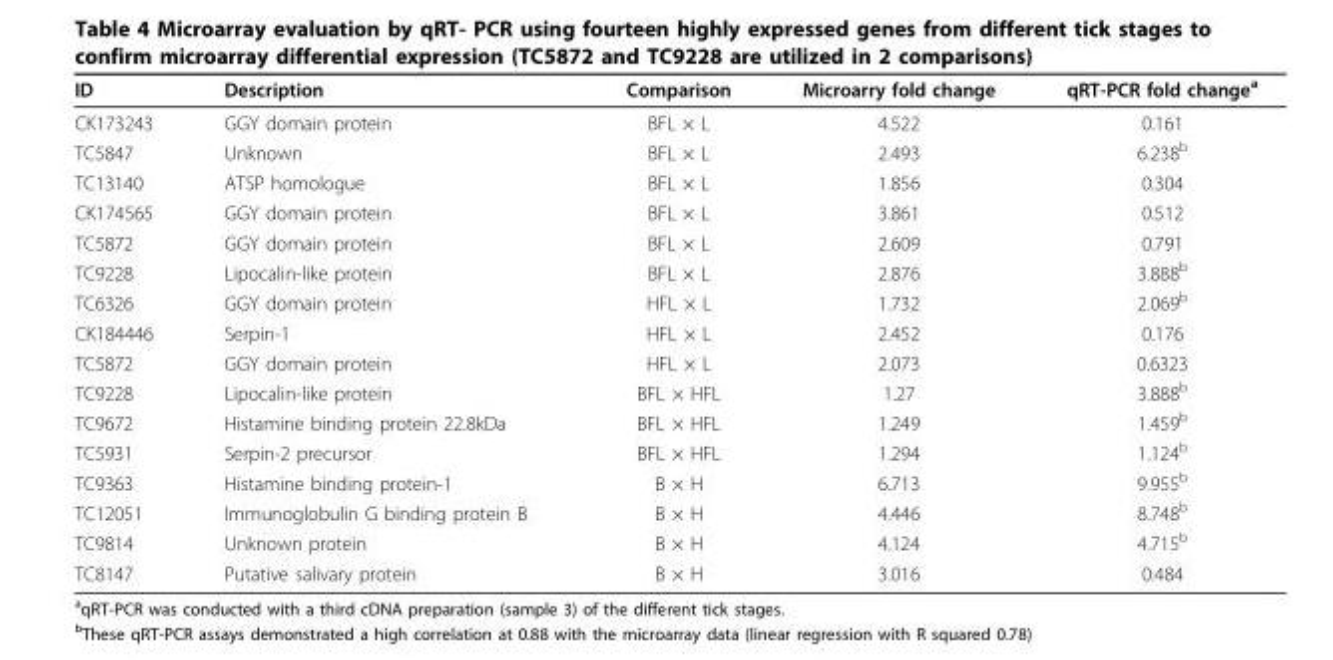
<table><thead><tr><td>ID</td><td>Description</td><td>Comparison</td><td>Microarry fold change</td><td>qRT-PCR fold change<sup>a</sup></td></tr></thead><tbody><tr><td>CK173243</td><td>GGY domain protein</td><td>BFL × L</td><td>4.522</td><td>0.161</td></tr><tr><td>TC5847</td><td>Unknown</td><td>BFL × L</td><td>2.493</td><td>6.238<sup>b</sup></td></tr><tr><td>TC13140</td><td>ATSP homologue</td><td>BFL × L</td><td>1.856</td><td>0.304</td></tr><tr><td>CK174565</td><td>GGY domain protein</td><td>BFL × L</td><td>3.861</td><td>0.512</td></tr><tr><td>TC5872</td><td>GGY domain protein</td><td>BFL × L</td><td>2.609</td><td>0.791</td></tr><tr><td>TC9228</td><td>Lipocalin-like protein</td><td>BFL × L</td><td>2.876</td><td>3.888<sup>b</sup></td></tr><tr><td>TC6326</td><td>GGY domain protein</td><td>HFL × L</td><td>1.732</td><td>2.069<sup>b</sup></td></tr><tr><td>CK184446</td><td>Serpin-1</td><td>HFL × L</td><td>2.452</td><td>0.176</td></tr><tr><td>TC5872</td><td>GGY domain protein</td><td>HFL × L</td><td>2.073</td><td>0.6323</td></tr><tr><td>TC9228</td><td>Lipocalin-like protein</td><td>BFL × HFL</td><td>1.27</td><td>3.888<sup>b</sup></td></tr><tr><td>TC9672</td><td>Histamine binding protein 22.8kDa</td><td>BFL × HFL</td><td>1.249</td><td>1.459<sup>b</sup></td></tr><tr><td>TC5931</td><td>Serpin-2 precursor</td><td>BFL × HFL</td><td>1.294</td><td>1.124<sup>b</sup></td></tr><tr><td>TC9363</td><td>Histamine binding protein-1</td><td>B × H</td><td>6.713</td><td>9.955<sup>b</sup></td></tr><tr><td>TC12051</td><td>Immunoglobulin G binding protein B</td><td>B × H</td><td>4.446</td><td>8.748<sup>b</sup></td></tr><tr><td>TC9814</td><td>Unknown protein</td><td>B × H</td><td>4.124</td><td>4.715<sup>b</sup></td></tr><tr><td>TC8147</td><td>Putative salivary protein</td><td>B × H</td><td>3.016</td><td>0.484</td></tr></tbody></table>